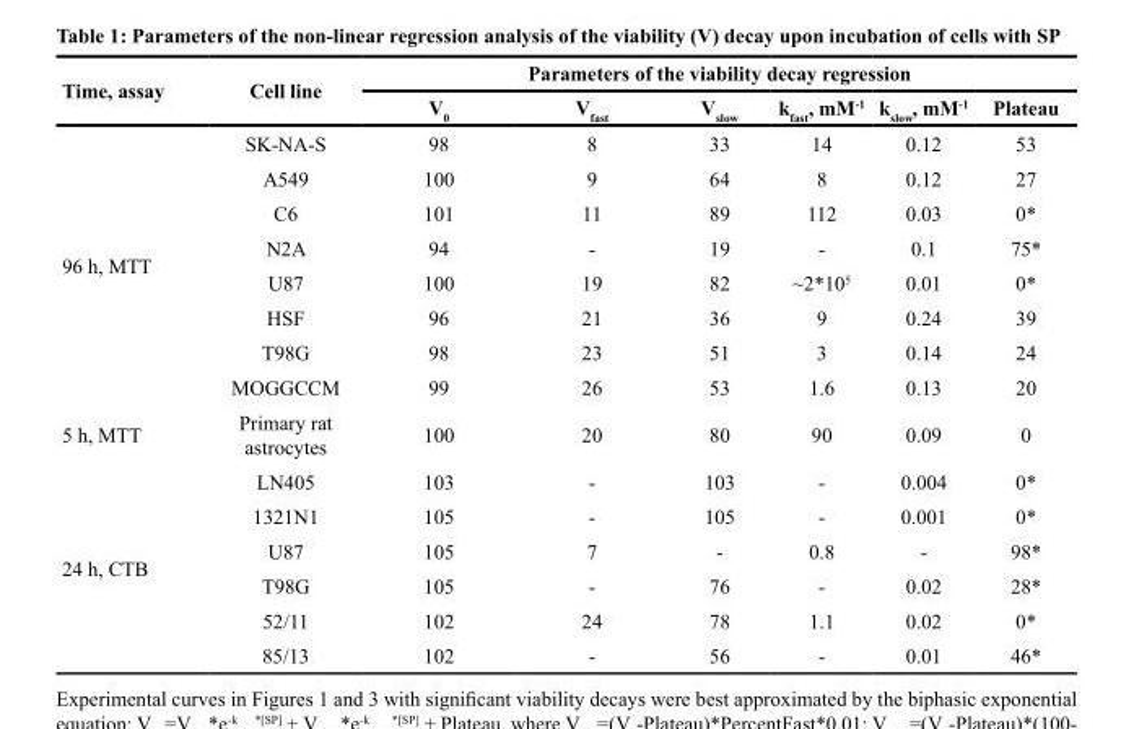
<table><thead><tr><td rowspan="2">Time, assay</td><td rowspan="2">Cell line</td><td colspan="6">Parameters of the viability decay regression</td></tr><tr><td>V<sub>0</sub></td><td>V<sub>fast</sub></td><td>V<sub>slow</sub></td><td>k<sub>fast</sub>, mM<sup>-1</sup></td><td>k<sub>slow</sub>, mM<sup>-1</sup></td><td>Plateau</td></tr></thead><tbody><tr><td rowspan="8">96 h, MTT</td><td>SK-NA-S</td><td>98</td><td>8</td><td>33</td><td>14</td><td>0.12</td><td>53</td></tr><tr><td>A549</td><td>100</td><td>9</td><td>64</td><td>8</td><td>0.12</td><td>27</td></tr><tr><td>C6</td><td>101</td><td>11</td><td>89</td><td>112</td><td>0.03</td><td>0*</td></tr><tr><td>N2A</td><td>94</td><td>-</td><td>19</td><td>-</td><td>0.1</td><td>75*</td></tr><tr><td>U87</td><td>100</td><td>19</td><td>82</td><td>~2*10<sup>5</sup></td><td>0.01</td><td>0*</td></tr><tr><td>HSF</td><td>96</td><td>21</td><td>36</td><td>9</td><td>0.24</td><td>39</td></tr><tr><td>T98G</td><td>98</td><td>23</td><td>51</td><td>3</td><td>0.14</td><td>24</td></tr><tr><td>MOGGCCM</td><td>99</td><td>26</td><td>53</td><td>1.6</td><td>0.13</td><td>20</td></tr><tr><td>5 h, MTT</td><td>Primary rat astrocytes</td><td>100</td><td>20</td><td>80</td><td>90</td><td>0.09</td><td>0</td></tr><tr><td rowspan="6">24 h, CTB</td><td>LN405</td><td>103</td><td>-</td><td>103</td><td>-</td><td>0.004</td><td>0*</td></tr><tr><td>1321N1</td><td>105</td><td>-</td><td>105</td><td>-</td><td>0.001</td><td>0*</td></tr><tr><td>U87</td><td>105</td><td>7</td><td>-</td><td>0.8</td><td>-</td><td>98*</td></tr><tr><td>T98G</td><td>105</td><td>-</td><td>76</td><td>-</td><td>0.02</td><td>28*</td></tr><tr><td>52/11</td><td>102</td><td>24</td><td>78</td><td>1.1</td><td>0.02</td><td>0*</td></tr><tr><td>85/13</td><td>102</td><td>-</td><td>56</td><td>-</td><td>0.01</td><td>46*</td></tr></tbody></table>